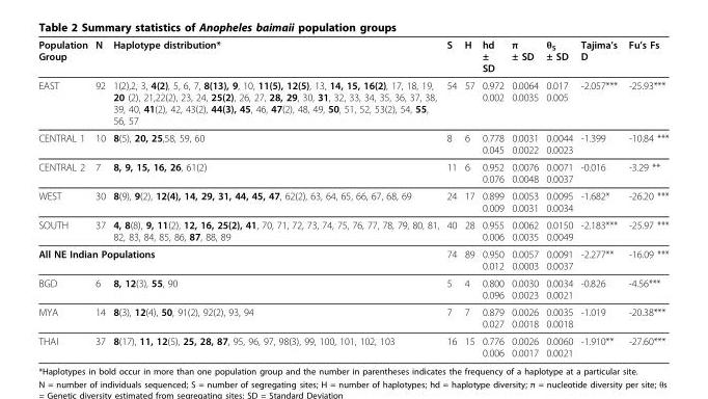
<table><thead><tr><td>Population Group</td><td>N</td><td>Haplotype distribution*</td><td>S</td><td>H</td><td>hd ± SD</td><td>π ± SD</td><td>θ<sub>S</sub> ± SD</td><td>Tajima’s D</td><td>Fu’s Fs</td></tr></thead><tbody><tr><td>EAST</td><td>92</td><td>1(2),2, 3, 4(2), 5, 6, 7, 8(13), 9, 10, 11(5), 12(5), 13, 14, 15, 16(2), 17, 18, 19, 20 (2), 21,22(2), 23, 24, 25(2), 26, 27, 28, 29, 30, 31, 32, 33, 34, 35, 36, 37, 38, 39, 40, 41(2), 42, 43(2), 44(3), 45, 46, 47(2), 48, 49, 50, 51, 52, 53(2), 54, 55, 56, 57</td><td>54</td><td>57</td><td>0.972 0.002</td><td>0.0064 0.0035</td><td>0.017 0.005</td><td>-2.057***</td><td>-25.93***</td></tr><tr><td>CENTRAL 1</td><td>10</td><td>8(5), 20, 25,58, 59, 60</td><td>8</td><td>6</td><td>0.778 0.045</td><td>0.0031 0.0022</td><td>0.0044 0.0023</td><td>-1.399</td><td>-10.84 ***</td></tr><tr><td>CENTRAL 2</td><td>7</td><td>8, 9, 15, 16, 26, 61(2)</td><td>11</td><td>6</td><td>0.952 0.076</td><td>0.0076 0.0048</td><td>0.0071 0.0037</td><td>-0.016</td><td>-3.29 **</td></tr><tr><td>WEST</td><td>30</td><td>8(9), 9(2), 12(4), 14, 29, 31, 44, 45, 47, 62(2), 63, 64, 65, 66, 67, 68, 69</td><td>24</td><td>17</td><td>0.899 0.009</td><td>0.0053 0.0031</td><td>0.0095 0.0034</td><td>-1.682*</td><td>-26.20 ***</td></tr><tr><td>SOUTH</td><td>37</td><td>4, 8(8), 9, 11(2), 12, 16, 25(2), 41, 70, 71, 72, 73, 74, 75, 76, 77, 78, 79, 80, 81, 82, 83, 84, 85, 86, 87, 88, 89</td><td>40</td><td>28</td><td>0.955 0.006</td><td>0.0062 0.0035</td><td>0.0150 0.0049</td><td>-2.183***</td><td>-25.97 ***</td></tr><tr><td colspan="3">All NE Indian Populations</td><td>74</td><td>89</td><td>0.950 0.012</td><td>0.0057 0.0003</td><td>0.0091 0.0037</td><td>-2.277**</td><td>-16.09 ***</td></tr><tr><td>BGD</td><td>6</td><td>8, 12(3), 55, 90</td><td>5</td><td>4</td><td>0.800 0.096</td><td>0.0030 0.0023</td><td>0.0034 0.0021</td><td>-0.826</td><td>-4.56***</td></tr><tr><td>MYA</td><td>14</td><td>8(3), 12(4), 50, 91(2), 92(2), 93, 94</td><td>7</td><td>7</td><td>0.879 0.027</td><td>0.0026 0.0018</td><td>0.0035 0.0018</td><td>-1.019</td><td>-20.38***</td></tr><tr><td>THAI</td><td>37</td><td>8(17), 11, 12(5), 25, 28, 87, 95, 96, 97, 98(3), 99, 100, 101, 102, 103</td><td>16</td><td>15</td><td>0.776 0.006</td><td>0.0026 0.0017</td><td>0.0060 0.0021</td><td>-1.910**</td><td>-27.60***</td></tr></tbody></table>